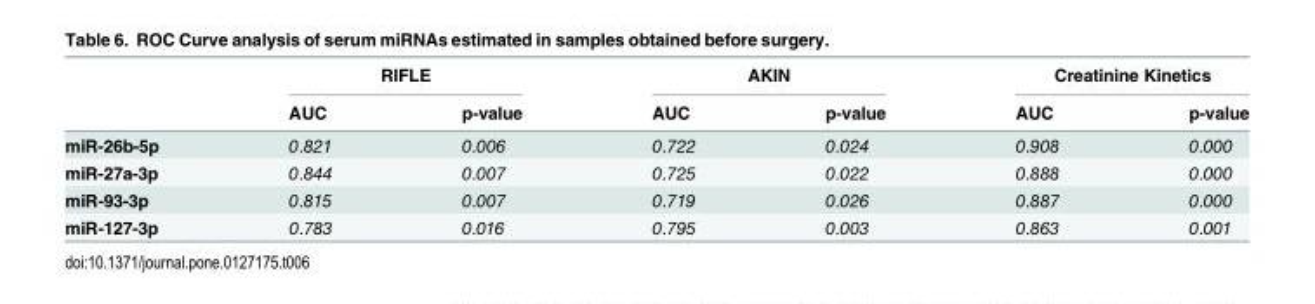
<table><thead><tr><td rowspan="2"></td><td colspan="2">RIFLE</td><td colspan="2">AKIN</td><td colspan="2">Creatinine Kinetics</td></tr><tr><td>AUC</td><td>p-value</td><td>AUC</td><td>p-value</td><td>AUC</td><td>p-value</td></tr></thead><tbody><tr><td>miR-26b-5p</td><td>0.821</td><td>0.006</td><td>0.722</td><td>0.024</td><td>0.908</td><td>0.000</td></tr><tr><td>miR-27a-3p</td><td>0.844</td><td>0.007</td><td>0.725</td><td>0.022</td><td>0.888</td><td>0.000</td></tr><tr><td>miR-93-3p</td><td>0.815</td><td>0.007</td><td>0.719</td><td>0.026</td><td>0.887</td><td>0.000</td></tr><tr><td>miR-127-3p</td><td>0.783</td><td>0.016</td><td>0.795</td><td>0.003</td><td>0.863</td><td>0.001</td></tr></tbody></table>